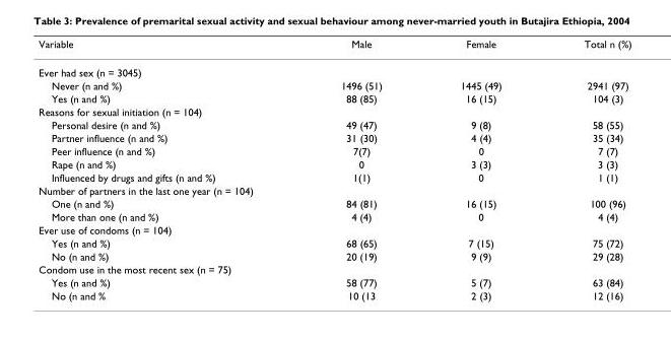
<table><thead><tr><td>Variable</td><td>Male</td><td>Female</td><td>Total n (%)</td></tr></thead><tbody><tr><td colspan="4">Ever had sex (n = 3045)</td></tr><tr><td>Never (n and %)</td><td>1496 (51)</td><td>1445 (49)</td><td>2941 (97)</td></tr><tr><td>Yes (n and %)</td><td>88 (85)</td><td>16 (15)</td><td>104 (3)</td></tr><tr><td colspan="4">Reasons for sexual initiation (n = 104)</td></tr><tr><td>Personal desire (n and %)</td><td>49 (47)</td><td>9 (8)</td><td>58 (55)</td></tr><tr><td>Partner influence (n and %)</td><td>31 (30)</td><td>4 (4)</td><td>35 (34)</td></tr><tr><td>Peer influence (n and %)</td><td>7(7)</td><td>0</td><td>7 (7)</td></tr><tr><td>Rape (n and %)</td><td>0</td><td>3 (3)</td><td>3 (3)</td></tr><tr><td>Influenced by drugs and gifts (n and %)</td><td>1(1)</td><td>0</td><td>1 (1)</td></tr><tr><td colspan="4">Number of partners in the last one year (n = 104)</td></tr><tr><td>One (n and %)</td><td>84 (81)</td><td>16 (15)</td><td>100 (96)</td></tr><tr><td>More than one (n and %)</td><td>4 (4)</td><td>0</td><td>4 (4)</td></tr><tr><td colspan="4">Ever use of condoms (n = 104)</td></tr><tr><td>Yes (n and %)</td><td>68 (65)</td><td>7 (15)</td><td>75 (72)</td></tr><tr><td>No (n and %)</td><td>20 (19)</td><td>9 (9)</td><td>29 (28)</td></tr><tr><td colspan="4">Condom use in the most recent sex (n = 75)</td></tr><tr><td>Yes (n and %)</td><td>58 (77)</td><td>5 (7)</td><td>63 (84)</td></tr><tr><td>No (n and %</td><td>10 (13</td><td>2 (3)</td><td>12 (16)</td></tr></tbody></table>